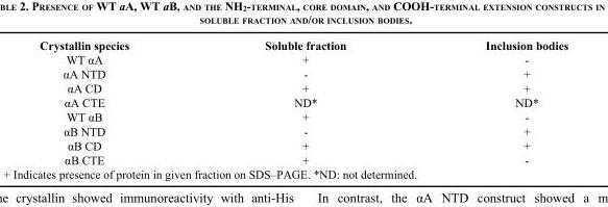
<table><thead><tr><td>Crystallin species</td><td>Soluble fraction</td><td>Inclusion bodies</td></tr></thead><tbody><tr><td>WT αA</td><td>+</td><td>-</td></tr><tr><td>αA NTD</td><td>-</td><td>+</td></tr><tr><td>αA CD</td><td>+</td><td>+</td></tr><tr><td>αA CTE</td><td>ND*</td><td>ND*</td></tr><tr><td>WT αB</td><td>+</td><td>-</td></tr><tr><td>αB NTD</td><td>-</td><td>+</td></tr><tr><td>αB CD</td><td>+</td><td>+</td></tr><tr><td>αB CTE</td><td>+</td><td>-</td></tr></tbody></table>